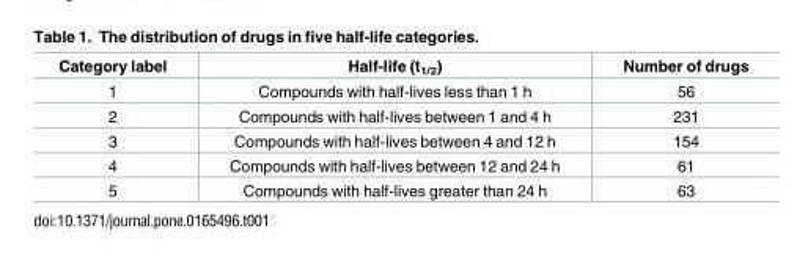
<table><thead><tr><td>Category label</td><td>Half-life (t<sub>1/2</sub>)</td><td>Number of drugs</td></tr></thead><tbody><tr><td>1</td><td>Compounds with half-lives less than 1 h</td><td>56</td></tr><tr><td>2</td><td>Compounds with half-lives between 1 and 4 h</td><td>231</td></tr><tr><td>3</td><td>Compounds with half-lives between 4 and 12 h</td><td>154</td></tr><tr><td>4</td><td>Compounds with half-lives between 12 and 24 h</td><td>61</td></tr><tr><td>5</td><td>Compounds with half-lives greater than 24 h</td><td>63</td></tr></tbody></table>